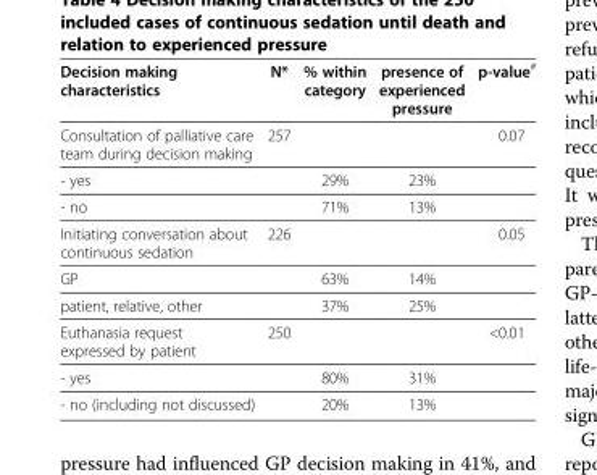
<table><thead><tr><td>Decision making characteristics</td><td>N*</td><td>% within category</td><td>presence of experienced pressure</td><td>p-value<sup>#</sup></td></tr></thead><tbody><tr><td>Consultation of palliative care team during decision making</td><td>257</td><td></td><td></td><td>0.07</td></tr><tr><td>- yes</td><td></td><td>29%</td><td>23%</td><td></td></tr><tr><td>- no</td><td></td><td>71%</td><td>13%</td><td></td></tr><tr><td>Initiating conversation about continuous sedation</td><td>226</td><td></td><td></td><td>0.05</td></tr><tr><td>GP</td><td></td><td>63%</td><td>14%</td><td></td></tr><tr><td>patient, relative, other</td><td></td><td>37%</td><td>25%</td><td></td></tr><tr><td>Euthanasia request expressed by patient</td><td>250</td><td></td><td></td><td>&lt;0.01</td></tr><tr><td>- yes</td><td></td><td>80%</td><td>31%</td><td></td></tr><tr><td>- no (including not discussed)</td><td></td><td>20%</td><td>13%</td><td></td></tr></tbody></table>